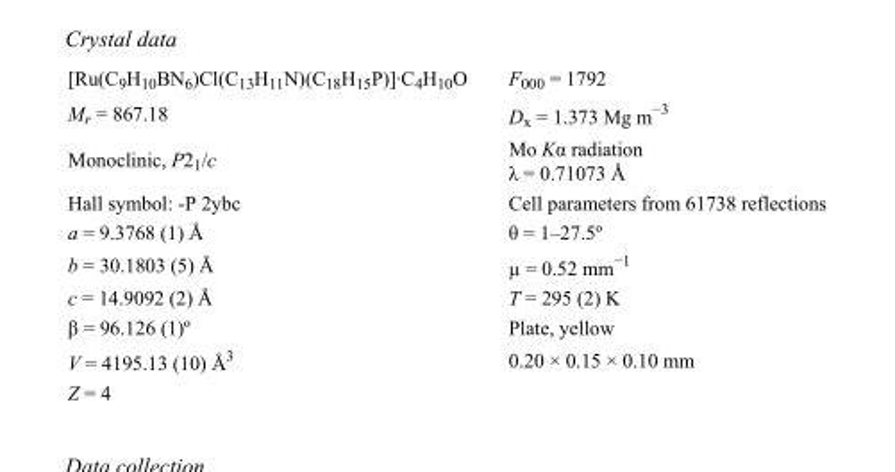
<table><tbody><tr><td>[Ru(C<sub>9</sub>H<sub>10</sub>BN<sub>6</sub>)Cl(C<sub>13</sub>H<sub>11</sub>N)(C<sub>18</sub>H<sub>15</sub>P)]·C<sub>4</sub>H<sub>10</sub>O</td><td>F000 = 1792</td></tr><tr><td>M<sub>r</sub> = 867.18</td><td>D<sub>x</sub> = 1.373 Mg m<sup>−3</sup></td></tr><tr><td>Monoclinic, P2<sub>1</sub>/c</td><td>Mo Kα radiation λ = 0.71073 Å</td></tr><tr><td>Hall symbol: -P 2ybc</td><td>Cell parameters from 61738 reflections</td></tr><tr><td>a = 9.3768 (1) Å</td><td>θ = 1–27.5º</td></tr><tr><td>b = 30.1803 (5) Å</td><td>µ = 0.52 mm<sup>−1</sup></td></tr><tr><td>c = 14.9092 (2) Å</td><td>T = 295 (2) K</td></tr><tr><td>β = 96.126 (1)º</td><td>Plate, yellow</td></tr><tr><td>V = 4195.13 (10) Å<sup>3</sup></td><td>0.20 × 0.15 × 0.10 mm</td></tr><tr><td>Z = 4</td><td></td></tr></tbody></table>